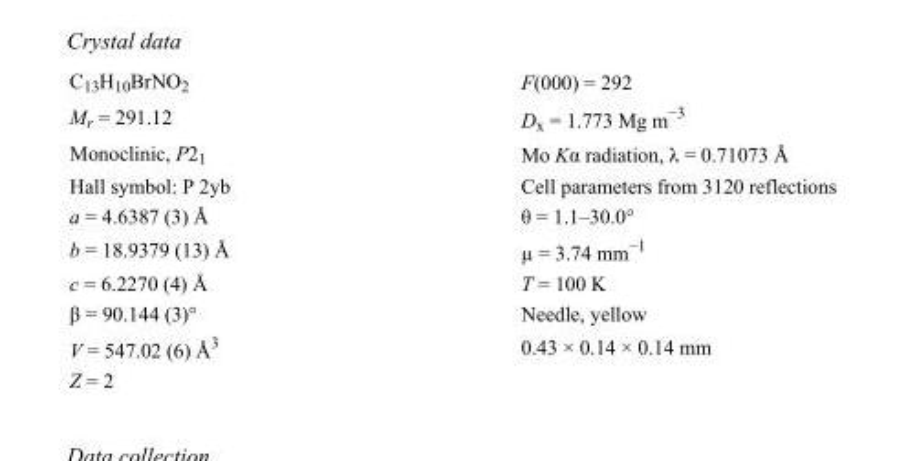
<table><tbody><tr><td>C<sub>13</sub>H<sub>10</sub>BrNO<sub>2</sub></td><td>F(000) = 292</td></tr><tr><td>M<sub>r</sub> = 291.12</td><td>D<sub>x</sub> = 1.773 Mg m<sup>−3</sup></td></tr><tr><td>Monoclinic, P2<sub>1</sub></td><td>Mo Kα radiation, λ = 0.71073 Å</td></tr><tr><td>Hall symbol: P 2yb</td><td>Cell parameters from 3120 reflections</td></tr><tr><td>a = 4.6387 (3) Å</td><td>θ = 1.1–30.0°</td></tr><tr><td>b = 18.9379 (13) Å</td><td>µ = 3.74 mm<sup>−1</sup></td></tr><tr><td>c = 6.2270 (4) Å</td><td>T = 100 K</td></tr><tr><td>β = 90.144 (3)°</td><td>Needle, yellow</td></tr><tr><td>V = 547.02 (6) Å<sup>3</sup></td><td>0.43 × 0.14 × 0.14 mm</td></tr><tr><td>Z = 2</td><td></td></tr></tbody></table>